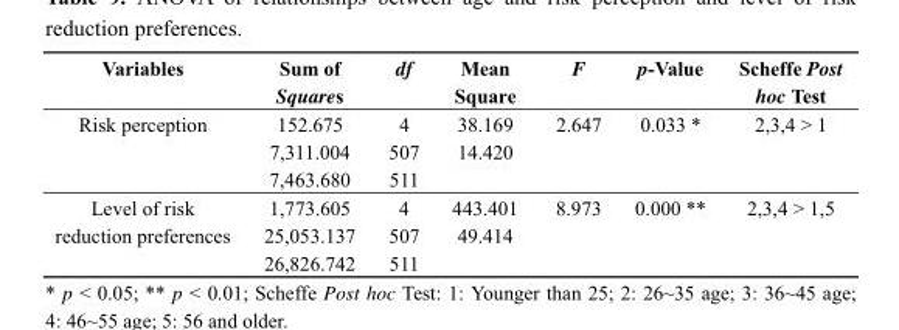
<table><thead><tr><td>Variables</td><td>Sum of Squares</td><td>df</td><td>Mean Square</td><td>F</td><td>p-Value</td><td>Scheffe Post hoc Test</td></tr></thead><tbody><tr><td rowspan="3">Risk perception</td><td>152.675</td><td>4</td><td>38.169</td><td>2.647</td><td>0.033 *</td><td>2,3,4 &gt; 1</td></tr><tr><td>7,311.004</td><td>507</td><td>14.420</td><td></td><td></td><td></td></tr><tr><td>7,463.680</td><td>511</td><td></td><td></td><td></td><td></td></tr><tr><td rowspan="3">Level of risk reduction preferences</td><td>1,773.605</td><td>4</td><td>443.401</td><td>8.973</td><td>0.000 **</td><td>2,3,4 &gt; 1,5</td></tr><tr><td>25,053.137</td><td>507</td><td>49.414</td><td></td><td></td><td></td></tr><tr><td>26,826.742</td><td>511</td><td></td><td></td><td></td><td></td></tr></tbody></table>